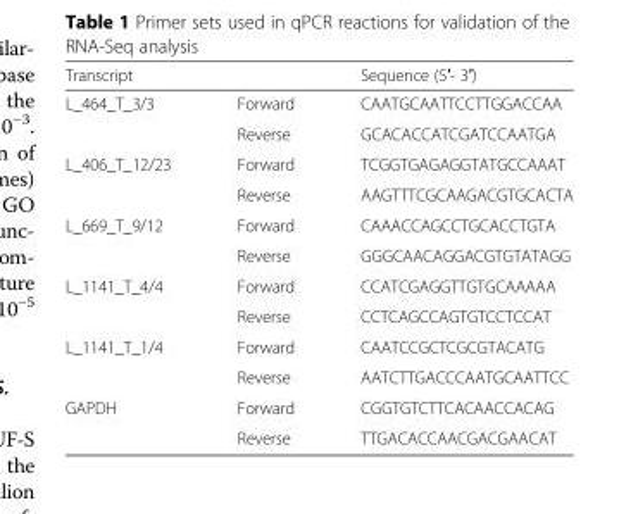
<table><thead><tr><td>Transcript</td><td></td><td>Sequence (5′- 3′)</td></tr></thead><tbody><tr><td rowspan="2">L_464_T_3/3</td><td>Forward</td><td>CAATGCAATTCCTTGGACCAA</td></tr><tr><td>Reverse</td><td>GCACACCATCGATCCAATGA</td></tr><tr><td rowspan="2">L_406_T_12/23</td><td>Forward</td><td>TCGGTGAGAGGTATGCCAAAT</td></tr><tr><td>Reverse</td><td>AAGTTTCGCAAGACGTGCACTA</td></tr><tr><td rowspan="2">L_669_T_9/12</td><td>Forward</td><td>CAAACCAGCCTGCACCTGTA</td></tr><tr><td>Reverse</td><td>GGGCAACAGGACGTGTATAGG</td></tr><tr><td rowspan="2">L_1141_T_4/4</td><td>Forward</td><td>CCATCGAGGTTGTGCAAAAA</td></tr><tr><td>Reverse</td><td>CCTCAGCCAGTGTCCTCCAT</td></tr><tr><td rowspan="2">L_1141_T_1/4</td><td>Forward</td><td>CAATCCGCTCGCGTACATG</td></tr><tr><td>Reverse</td><td>AATCTTGACCCAATGCAATTCC</td></tr><tr><td rowspan="2">GAPDH</td><td>Forward</td><td>CGGTGTCTTCACAACCACAG</td></tr><tr><td>Reverse</td><td>TTGACACCAACGACGAACAT</td></tr></tbody></table>